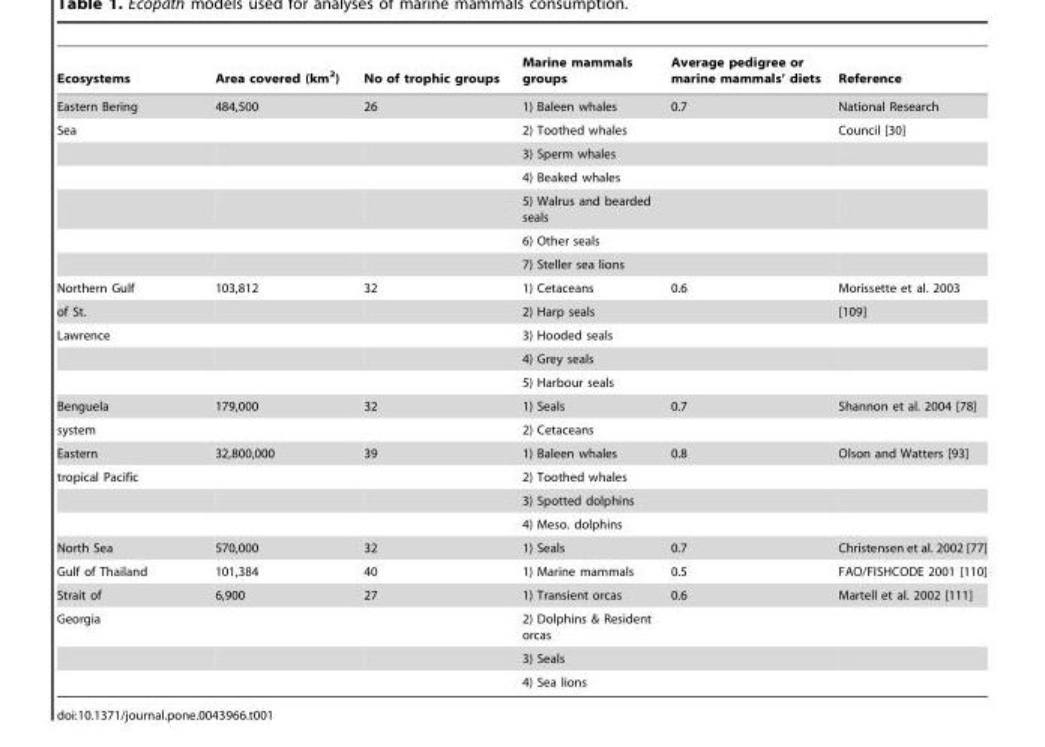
<table><thead><tr><td>Ecosystems</td><td>Area covered (km<sup>2</sup>)</td><td>No of trophic groups</td><td>Marine mammals groups</td><td>Average pedigree or marine mammals’ diets</td><td>Reference</td></tr></thead><tbody><tr><td>Eastern Bering</td><td>484,500</td><td>26</td><td>1) Baleen whales</td><td>0.7</td><td>National Research</td></tr><tr><td rowspan="6">Sea</td><td></td><td></td><td>2) Toothed whales</td><td></td><td>Council [30]</td></tr><tr><td></td><td></td><td>3) Sperm whales</td><td></td><td></td></tr><tr><td></td><td></td><td>4) Beaked whales</td><td></td><td></td></tr><tr><td></td><td></td><td>5) Walrus and bearded seals</td><td></td><td></td></tr><tr><td></td><td></td><td>6) Other seals</td><td></td><td></td></tr><tr><td></td><td></td><td>7) Steller sea lions</td><td></td><td></td></tr><tr><td>Northern Gulf</td><td>103,812</td><td>32</td><td>1) Cetaceans</td><td>0.6</td><td>Morissette et al. 2003</td></tr><tr><td>of St.</td><td></td><td></td><td>2) Harp seals</td><td></td><td>[109]</td></tr><tr><td rowspan="3">Lawrence</td><td></td><td></td><td>3) Hooded seals</td><td></td><td></td></tr><tr><td></td><td></td><td>4) Grey seals</td><td></td><td></td></tr><tr><td></td><td></td><td>5) Harbour seals</td><td></td><td></td></tr><tr><td>Benguela</td><td>179,000</td><td>32</td><td>1) Seals</td><td>0.7</td><td>Shannon et al. 2004 [78]</td></tr><tr><td>system</td><td></td><td></td><td>2) Cetaceans</td><td></td><td></td></tr><tr><td>Eastern</td><td>32,800,000</td><td>39</td><td>1) Baleen whales</td><td>0.8</td><td>Olson and Watters [93]</td></tr><tr><td rowspan="3">tropical Pacific</td><td></td><td></td><td>2) Toothed whales</td><td></td><td></td></tr><tr><td></td><td></td><td>3) Spotted dolphins</td><td></td><td></td></tr><tr><td></td><td></td><td>4) Meso. dolphins</td><td></td><td></td></tr><tr><td>North Sea</td><td>570,000</td><td>32</td><td>1) Seals</td><td>0.7</td><td>Christensen et al. 2002 [77]</td></tr><tr><td>Gulf of Thailand</td><td>101,384</td><td>40</td><td>1) Marine mammals</td><td>0.5</td><td>FAO/FISHCODE 2001 [110]</td></tr><tr><td>Strait of</td><td>6,900</td><td>27</td><td>1) Transient orcas</td><td>0.6</td><td>Martell et al. 2002 [111]</td></tr><tr><td rowspan="3">Georgia</td><td></td><td></td><td>2) Dolphins &amp; Resident orcas</td><td></td><td></td></tr><tr><td></td><td></td><td>3) Seals</td><td></td><td></td></tr><tr><td></td><td></td><td>4) Sea lions</td><td></td><td></td></tr></tbody></table>